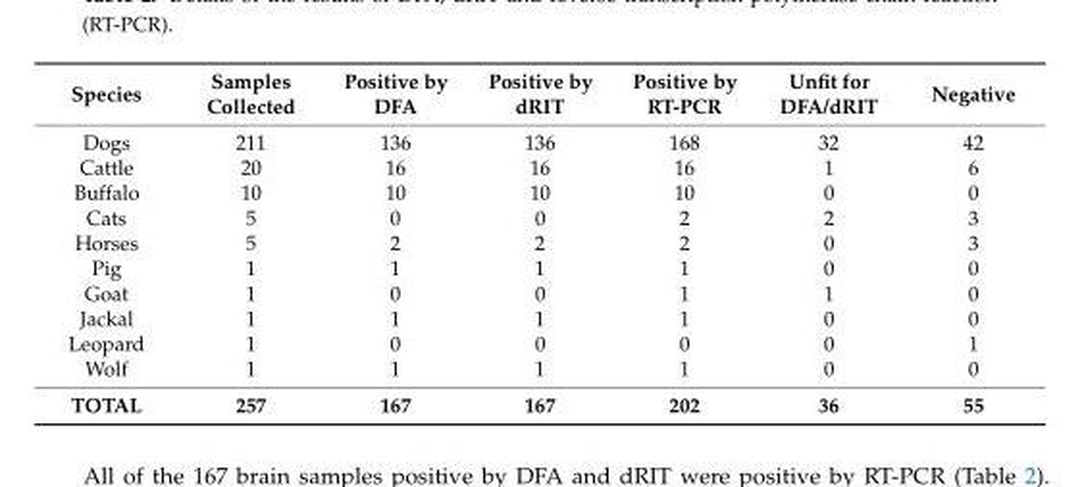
<table><thead><tr><td>Species</td><td>Samples Collected</td><td>Positive by DFA</td><td>Positive by dRIT</td><td>Positive by RT-PCR</td><td>Unfit for DFA/dRIT</td><td>Negative</td></tr></thead><tbody><tr><td>Dogs</td><td>211</td><td>136</td><td>136</td><td>168</td><td>32</td><td>42</td></tr><tr><td>Cattle</td><td>20</td><td>16</td><td>16</td><td>16</td><td>1</td><td>6</td></tr><tr><td>Buffalo</td><td>10</td><td>10</td><td>10</td><td>10</td><td>0</td><td>0</td></tr><tr><td>Cats</td><td>5</td><td>0</td><td>0</td><td>2</td><td>2</td><td>3</td></tr><tr><td>Horses</td><td>5</td><td>2</td><td>2</td><td>2</td><td>0</td><td>3</td></tr><tr><td>Pig</td><td>1</td><td>1</td><td>1</td><td>1</td><td>0</td><td>0</td></tr><tr><td>Goat</td><td>1</td><td>0</td><td>0</td><td>1</td><td>1</td><td>0</td></tr><tr><td>Jackal</td><td>1</td><td>1</td><td>1</td><td>1</td><td>0</td><td>0</td></tr><tr><td>Leopard</td><td>1</td><td>0</td><td>0</td><td>0</td><td>0</td><td>1</td></tr><tr><td>Wolf</td><td>1</td><td>1</td><td>1</td><td>1</td><td>0</td><td>0</td></tr><tr><td>TOTAL</td><td>257</td><td>167</td><td>167</td><td>202</td><td>36</td><td>55</td></tr></tbody></table>